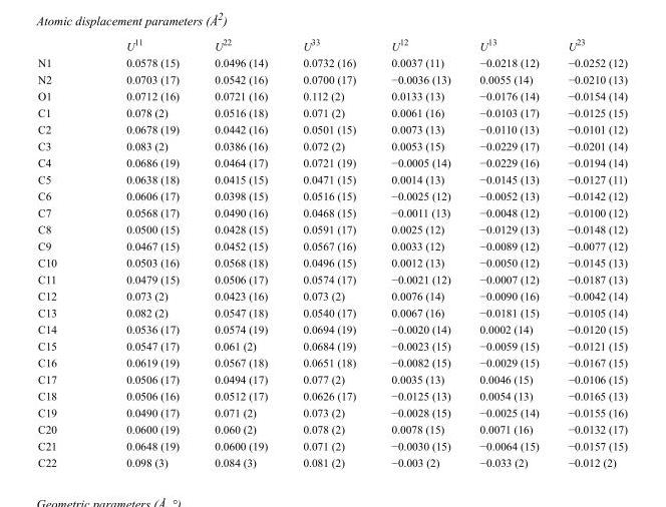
<table><thead><tr><td></td><td>U<sup>11</sup></td><td>U<sup>22</sup></td><td>U<sup>33</sup></td><td>U<sup>12</sup></td><td>U<sup>13</sup></td><td>U<sup>23</sup></td></tr></thead><tbody><tr><td>N1</td><td>0.0578 (15)</td><td>0.0496 (14)</td><td>0.0732 (16)</td><td>0.0037 (11)</td><td>−0.0218 (12)</td><td>−0.0252 (12)</td></tr><tr><td>N2</td><td>0.0703 (17)</td><td>0.0542 (16)</td><td>0.0700 (17)</td><td>−0.0036 (13)</td><td>0.0055 (14)</td><td>−0.0210 (13)</td></tr><tr><td>O1</td><td>0.0712 (16)</td><td>0.0721 (16)</td><td>0.112 (2)</td><td>0.0133 (13)</td><td>−0.0176 (14)</td><td>−0.0154 (14)</td></tr><tr><td>C1</td><td>0.078 (2)</td><td>0.0516 (18)</td><td>0.071 (2)</td><td>0.0061 (16)</td><td>−0.0103 (17)</td><td>−0.0125 (15)</td></tr><tr><td>C2</td><td>0.0678 (19)</td><td>0.0442 (16)</td><td>0.0501 (15)</td><td>0.0073 (13)</td><td>−0.0110 (13)</td><td>−0.0101 (12)</td></tr><tr><td>C3</td><td>0.083 (2)</td><td>0.0386 (16)</td><td>0.072 (2)</td><td>0.0053 (15)</td><td>−0.0229 (17)</td><td>−0.0201 (14)</td></tr><tr><td>C4</td><td>0.0686 (19)</td><td>0.0464 (17)</td><td>0.0721 (19)</td><td>−0.0005 (14)</td><td>−0.0229 (16)</td><td>−0.0194 (14)</td></tr><tr><td>C5</td><td>0.0638 (18)</td><td>0.0415 (15)</td><td>0.0471 (15)</td><td>0.0014 (13)</td><td>−0.0145 (13)</td><td>−0.0127 (11)</td></tr><tr><td>C6</td><td>0.0606 (17)</td><td>0.0398 (15)</td><td>0.0516 (15)</td><td>−0.0025 (12)</td><td>−0.0052 (13)</td><td>−0.0142 (12)</td></tr><tr><td>C7</td><td>0.0568 (17)</td><td>0.0490 (16)</td><td>0.0468 (15)</td><td>−0.0011 (13)</td><td>−0.0048 (12)</td><td>−0.0100 (12)</td></tr><tr><td>C8</td><td>0.0500 (15)</td><td>0.0428 (15)</td><td>0.0591 (17)</td><td>0.0025 (12)</td><td>−0.0129 (13)</td><td>−0.0148 (12)</td></tr><tr><td>C9</td><td>0.0467 (15)</td><td>0.0452 (15)</td><td>0.0567 (16)</td><td>0.0033 (12)</td><td>−0.0089 (12)</td><td>−0.0077 (12)</td></tr><tr><td>C10</td><td>0.0503 (16)</td><td>0.0568 (18)</td><td>0.0496 (15)</td><td>0.0012 (13)</td><td>−0.0050 (12)</td><td>−0.0145 (13)</td></tr><tr><td>C11</td><td>0.0479 (15)</td><td>0.0506 (17)</td><td>0.0574 (17)</td><td>−0.0021 (12)</td><td>−0.0007 (12)</td><td>−0.0187 (13)</td></tr><tr><td>C12</td><td>0.073 (2)</td><td>0.0423 (16)</td><td>0.073 (2)</td><td>0.0076 (14)</td><td>−0.0090 (16)</td><td>−0.0042 (14)</td></tr><tr><td>C13</td><td>0.082 (2)</td><td>0.0547 (18)</td><td>0.0540 (17)</td><td>0.0067 (16)</td><td>−0.0181 (15)</td><td>−0.0105 (14)</td></tr><tr><td>C14</td><td>0.0536 (17)</td><td>0.0574 (19)</td><td>0.0694 (19)</td><td>−0.0020 (14)</td><td>0.0002 (14)</td><td>−0.0120 (15)</td></tr><tr><td>C15</td><td>0.0547 (17)</td><td>0.061 (2)</td><td>0.0684 (19)</td><td>−0.0023 (15)</td><td>−0.0059 (15)</td><td>−0.0121 (15)</td></tr><tr><td>C16</td><td>0.0619 (19)</td><td>0.0567 (18)</td><td>0.0651 (18)</td><td>−0.0082 (15)</td><td>−0.0029 (15)</td><td>−0.0167 (15)</td></tr><tr><td>C17</td><td>0.0506 (17)</td><td>0.0494 (17)</td><td>0.077 (2)</td><td>0.0035 (13)</td><td>0.0046 (15)</td><td>−0.0106 (15)</td></tr><tr><td>C18</td><td>0.0506 (16)</td><td>0.0512 (17)</td><td>0.0626 (17)</td><td>−0.0125 (13)</td><td>0.0054 (13)</td><td>−0.0165 (13)</td></tr><tr><td>C19</td><td>0.0490 (17)</td><td>0.071 (2)</td><td>0.073 (2)</td><td>−0.0028 (15)</td><td>−0.0025 (14)</td><td>−0.0155 (16)</td></tr><tr><td>C20</td><td>0.0600 (19)</td><td>0.060 (2)</td><td>0.078 (2)</td><td>0.0078 (15)</td><td>0.0071 (16)</td><td>−0.0132 (17)</td></tr><tr><td>C21</td><td>0.0648 (19)</td><td>0.0600 (19)</td><td>0.071 (2)</td><td>−0.0030 (15)</td><td>−0.0064 (15)</td><td>−0.0157 (15)</td></tr><tr><td>C22</td><td>0.098 (3)</td><td>0.084 (3)</td><td>0.081 (2)</td><td>−0.003 (2)</td><td>−0.033 (2)</td><td>−0.012 (2)</td></tr></tbody></table>